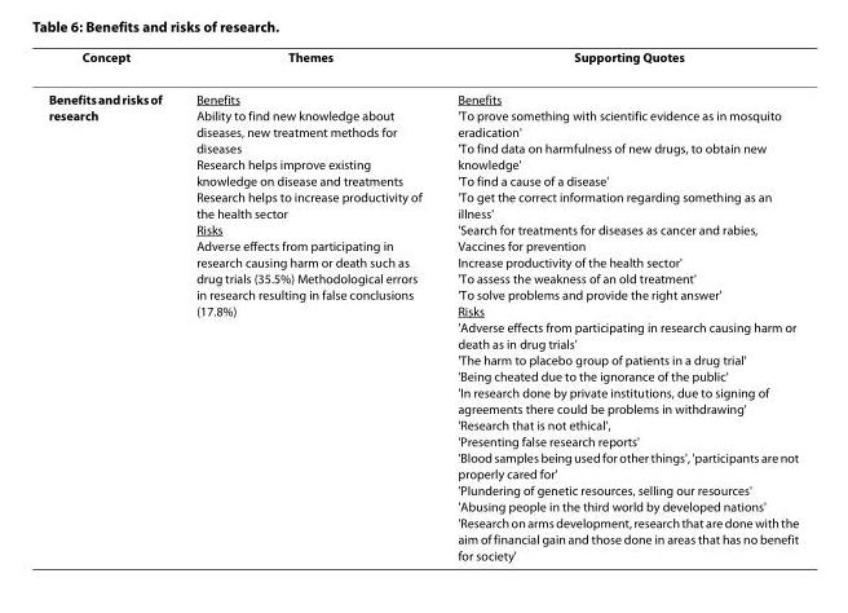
<table><thead><tr><td>Concept</td><td>Themes</td><td>Supporting Quotes</td></tr></thead><tbody><tr><td>Benefits and risks of research</td><td>Benefits Ability to find new knowledge about diseases, new treatment methods for diseases Research helps improve existing knowledge on disease and treatments Research helps to increase productivity of the health sector Risks Adverse effects from participating in research causing harm or death such as drug trials (35.5%) Methodological errors in research resulting in false conclusions (17.8%)</td><td>Benefits &#x27;To prove something with scientific evidence as in mosquito eradication&#x27; &#x27;To find data on harmfulness of new drugs, to obtain new knowledge&#x27; &#x27;To find a cause of a disease&#x27; &#x27;To get the correct information regarding something as an illness&#x27; &#x27;Search for treatments for diseases as cancer and rabies, Vaccines for prevention Increase productivity of the health sector&#x27; &#x27;To assess the weakness of an old treatment&#x27; &#x27;To solve problems and provide the right answer&#x27; Risks &#x27;Adverse effects from participating in research causing harm or death as in drug trials&#x27; &#x27;The harm to placebo group of patients in a drug trial&#x27; &#x27;Being cheated due to the ignorance of the public&#x27; &#x27;In research done by private institutions, due to signing of agreements there could be problems in withdrawing&#x27; &#x27;Research that is not ethical&#x27;, &#x27;Presenting false research reports&#x27; &#x27;Blood samples being used for other things&#x27;, &#x27;participants are not properly cared for&#x27; &#x27;Plundering of genetic resources, selling our resources&#x27; &#x27;Abusing people in the third world by developed nations&#x27; &#x27;Research on arms development, research that are done with the aim of financial gain and those done in areas that has no benefit for society&#x27;</td></tr></tbody></table>